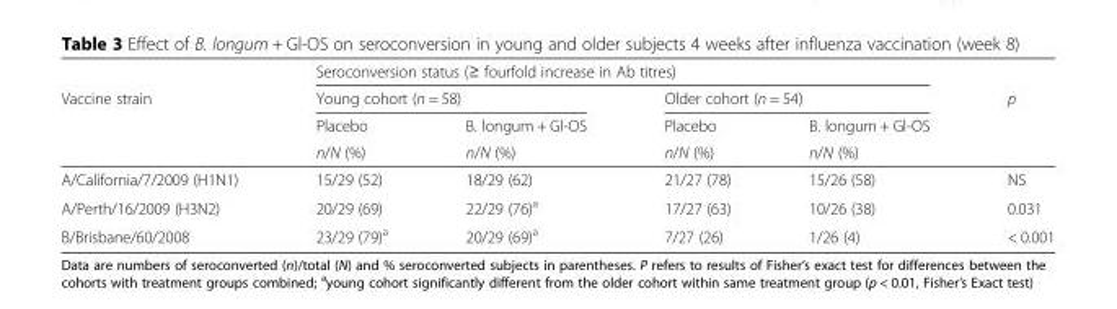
<table><thead><tr><td rowspan="4">Vaccine strain</td><td colspan="4">Seroconversion status (≥ fourfold increase in Ab titres)</td><td rowspan="4">p</td></tr><tr><td colspan="2">Young cohort (n = 58)</td><td colspan="2">Older cohort (n = 54)</td></tr><tr><td rowspan="2">Placebo n/N (%)</td><td rowspan="2">B. longum + Gl-OS n/N (%)</td><td rowspan="2">Placebo n/N (%)</td><td rowspan="2">B. longum + Gl-OS n/N (%)</td></tr><tr></tr></thead><tbody><tr><td>A/California/7/2009 (H1N1)</td><td>15/29 (52)</td><td>18/29 (62)</td><td>21/27 (78)</td><td>15/26 (58)</td><td>NS</td></tr><tr><td>A/Perth/16/2009 (H3N2)</td><td>20/29 (69)</td><td>22/29 (76)<sup>a</sup></td><td>17/27 (63)</td><td>10/26 (38)</td><td>0.031</td></tr><tr><td>B/Brisbane/60/2008</td><td>23/29 (79)<sup>a</sup></td><td>20/29 (69)<sup>a</sup></td><td>7/27 (26)</td><td>1/26 (4)</td><td>&lt; 0.001</td></tr></tbody></table>